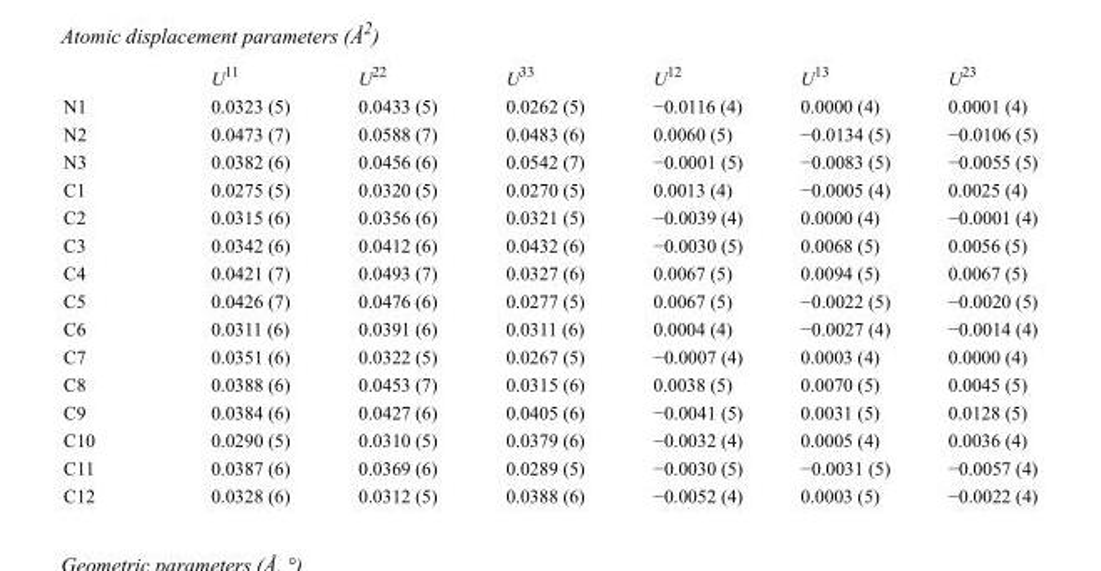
<table><thead><tr><td></td><td>U<sup>11</sup></td><td>U<sup>22</sup></td><td>U<sup>33</sup></td><td>U<sup>12</sup></td><td>U<sup>13</sup></td><td>U<sup>23</sup></td></tr></thead><tbody><tr><td>N1</td><td>0.0323 (5)</td><td>0.0433 (5)</td><td>0.0262 (5)</td><td>−0.0116 (4)</td><td>0.0000 (4)</td><td>0.0001 (4)</td></tr><tr><td>N2</td><td>0.0473 (7)</td><td>0.0588 (7)</td><td>0.0483 (6)</td><td>0.0060 (5)</td><td>−0.0134 (5)</td><td>−0.0106 (5)</td></tr><tr><td>N3</td><td>0.0382 (6)</td><td>0.0456 (6)</td><td>0.0542 (7)</td><td>−0.0001 (5)</td><td>−0.0083 (5)</td><td>−0.0055 (5)</td></tr><tr><td>C1</td><td>0.0275 (5)</td><td>0.0320 (5)</td><td>0.0270 (5)</td><td>0.0013 (4)</td><td>−0.0005 (4)</td><td>0.0025 (4)</td></tr><tr><td>C2</td><td>0.0315 (6)</td><td>0.0356 (6)</td><td>0.0321 (5)</td><td>−0.0039 (4)</td><td>0.0000 (4)</td><td>−0.0001 (4)</td></tr><tr><td>C3</td><td>0.0342 (6)</td><td>0.0412 (6)</td><td>0.0432 (6)</td><td>−0.0030 (5)</td><td>0.0068 (5)</td><td>0.0056 (5)</td></tr><tr><td>C4</td><td>0.0421 (7)</td><td>0.0493 (7)</td><td>0.0327 (6)</td><td>0.0067 (5)</td><td>0.0094 (5)</td><td>0.0067 (5)</td></tr><tr><td>C5</td><td>0.0426 (7)</td><td>0.0476 (6)</td><td>0.0277 (5)</td><td>0.0067 (5)</td><td>−0.0022 (5)</td><td>−0.0020 (5)</td></tr><tr><td>C6</td><td>0.0311 (6)</td><td>0.0391 (6)</td><td>0.0311 (6)</td><td>0.0004 (4)</td><td>−0.0027 (4)</td><td>−0.0014 (4)</td></tr><tr><td>C7</td><td>0.0351 (6)</td><td>0.0322 (5)</td><td>0.0267 (5)</td><td>−0.0007 (4)</td><td>0.0003 (4)</td><td>0.0000 (4)</td></tr><tr><td>C8</td><td>0.0388 (6)</td><td>0.0453 (7)</td><td>0.0315 (6)</td><td>0.0038 (5)</td><td>0.0070 (5)</td><td>0.0045 (5)</td></tr><tr><td>C9</td><td>0.0384 (6)</td><td>0.0427 (6)</td><td>0.0405 (6)</td><td>−0.0041 (5)</td><td>0.0031 (5)</td><td>0.0128 (5)</td></tr><tr><td>C10</td><td>0.0290 (5)</td><td>0.0310 (5)</td><td>0.0379 (6)</td><td>−0.0032 (4)</td><td>0.0005 (4)</td><td>0.0036 (4)</td></tr><tr><td>C11</td><td>0.0387 (6)</td><td>0.0369 (6)</td><td>0.0289 (5)</td><td>−0.0030 (5)</td><td>−0.0031 (5)</td><td>−0.0057 (4)</td></tr><tr><td>C12</td><td>0.0328 (6)</td><td>0.0312 (5)</td><td>0.0388 (6)</td><td>−0.0052 (4)</td><td>0.0003 (5)</td><td>−0.0022 (4)</td></tr></tbody></table>